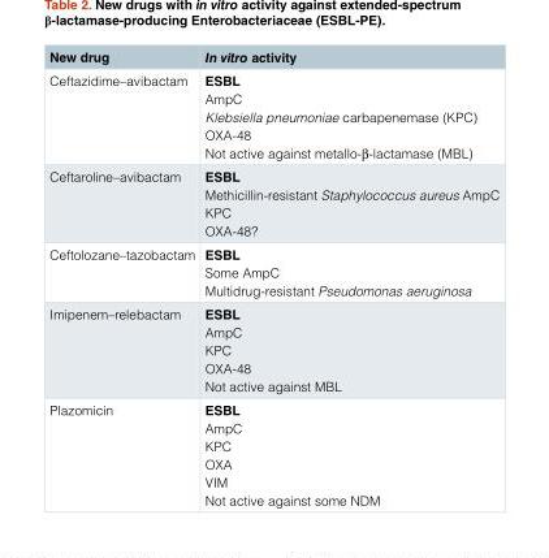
<table><thead><tr><td>New drug</td><td>In vitro activity</td></tr></thead><tbody><tr><td>Ceftazidime–avibactam</td><td>ESBL AmpC Klebsiella pneumoniae carbapenemase (KPC) OXA-48 Not active against metallo-β-lactamase (MBL)</td></tr><tr><td>Ceftaroline–avibactam</td><td>ESBL Methicillin-resistant Staphylococcus aureus AmpC KPC OXA-48?</td></tr><tr><td>Ceftolozane–tazobactam</td><td>ESBL Some AmpC Multidrug-resistant Pseudomonas aeruginosa</td></tr><tr><td>Imipenem–relebactam</td><td>ESBL AmpC KPC OXA-48 Not active against MBL</td></tr><tr><td>Plazomicin</td><td>ESBL AmpC KPC OXA VIM Not active against some NDM</td></tr></tbody></table>